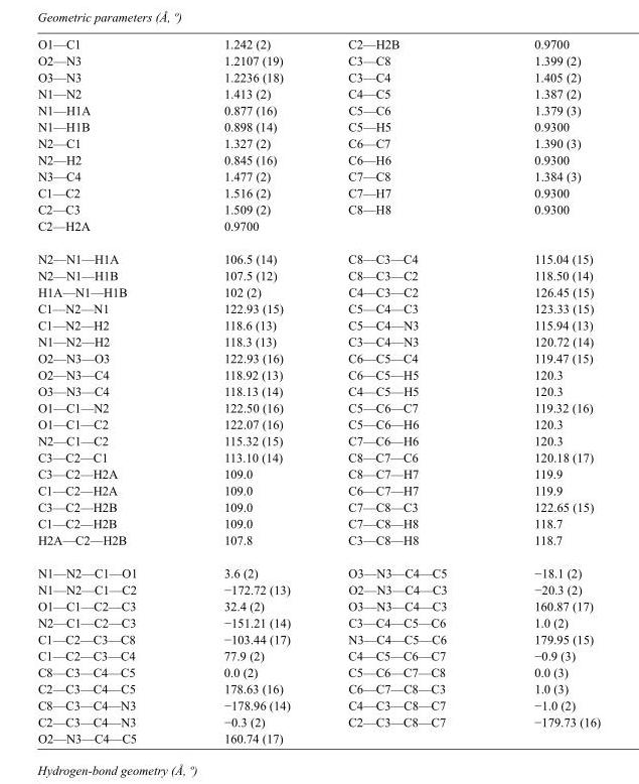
<table><tbody><tr><td>O1—C1</td><td>1.242 (2)</td><td>C2—H2B</td><td>0.9700</td></tr><tr><td>O2—N3</td><td>1.2107 (19)</td><td>C3—C8</td><td>1.399 (2)</td></tr><tr><td>O3—N3</td><td>1.2236 (18)</td><td>C3—C4</td><td>1.405 (2)</td></tr><tr><td>N1—N2</td><td>1.413 (2)</td><td>C4—C5</td><td>1.387 (2)</td></tr><tr><td>N1—H1A</td><td>0.877 (16)</td><td>C5—C6</td><td>1.379 (3)</td></tr><tr><td>N1—H1B</td><td>0.898 (14)</td><td>C5—H5</td><td>0.9300</td></tr><tr><td>N2—C1</td><td>1.327 (2)</td><td>C6—C7</td><td>1.390 (3)</td></tr><tr><td>N2—H2</td><td>0.845 (16)</td><td>C6—H6</td><td>0.9300</td></tr><tr><td>N3—C4</td><td>1.477 (2)</td><td>C7—C8</td><td>1.384 (3)</td></tr><tr><td>C1—C2</td><td>1.516 (2)</td><td>C7—H7</td><td>0.9300</td></tr><tr><td>C2—C3</td><td>1.509 (2)</td><td>C8—H8</td><td>0.9300</td></tr><tr><td>C2—H2A</td><td>0.9700</td><td></td><td></td></tr><tr><td>N2—N1—H1A</td><td>106.5 (14)</td><td>C8—C3—C4</td><td>115.04 (15)</td></tr><tr><td>N2—N1—H1B</td><td>107.5 (12)</td><td>C8—C3—C2</td><td>118.50 (14)</td></tr><tr><td>H1A—N1—H1B</td><td>102 (2)</td><td>C4—C3—C2</td><td>126.45 (15)</td></tr><tr><td>C1—N2—N1</td><td>122.93 (15)</td><td>C5—C4—C3</td><td>123.33 (15)</td></tr><tr><td>C1—N2—H2</td><td>118.6 (13)</td><td>C5—C4—N3</td><td>115.94 (13)</td></tr><tr><td>N1—N2—H2</td><td>118.3 (13)</td><td>C3—C4—N3</td><td>120.72 (14)</td></tr><tr><td>O2—N3—O3</td><td>122.93 (16)</td><td>C6—C5—C4</td><td>119.47 (15)</td></tr><tr><td>O2—N3—C4</td><td>118.92 (13)</td><td>C6—C5—H5</td><td>120.3</td></tr><tr><td>O3—N3—C4</td><td>118.13 (14)</td><td>C4—C5—H5</td><td>120.3</td></tr><tr><td>O1—C1—N2</td><td>122.50 (16)</td><td>C5—C6—C7</td><td>119.32 (16)</td></tr><tr><td>O1—C1—C2</td><td>122.07 (16)</td><td>C5—C6—H6</td><td>120.3</td></tr><tr><td>N2—C1—C2</td><td>115.32 (15)</td><td>C7—C6—H6</td><td>120.3</td></tr><tr><td>C3—C2—C1</td><td>113.10 (14)</td><td>C8—C7—C6</td><td>120.18 (17)</td></tr><tr><td>C3—C2—H2A</td><td>109.0</td><td>C8—C7—H7</td><td>119.9</td></tr><tr><td>C1—C2—H2A</td><td>109.0</td><td>C6—C7—H7</td><td>119.9</td></tr><tr><td>C3—C2—H2B</td><td>109.0</td><td>C7—C8—C3</td><td>122.65 (15)</td></tr><tr><td>C1—C2—H2B</td><td>109.0</td><td>C7—C8—H8</td><td>118.7</td></tr><tr><td>H2A—C2—H2B</td><td>107.8</td><td>C3—C8—H8</td><td>118.7</td></tr><tr><td>N1—N2—C1—O1</td><td>3.6 (2)</td><td>O3—N3—C4—C5</td><td>−18.1 (2)</td></tr><tr><td>N1—N2—C1—C2</td><td>−172.72 (13)</td><td>O2—N3—C4—C3</td><td>−20.3 (2)</td></tr><tr><td>O1—C1—C2—C3</td><td>32.4 (2)</td><td>O3—N3—C4—C3</td><td>160.87 (17)</td></tr><tr><td>N2—C1—C2—C3</td><td>−151.21 (14)</td><td>C3—C4—C5—C6</td><td>1.0 (2)</td></tr><tr><td>C1—C2—C3—C8</td><td>−103.44 (17)</td><td>N3—C4—C5—C6</td><td>179.95 (15)</td></tr><tr><td>C1—C2—C3—C4</td><td>77.9 (2)</td><td>C4—C5—C6—C7</td><td>−0.9 (3)</td></tr><tr><td>C8—C3—C4—C5</td><td>0.0 (2)</td><td>C5—C6—C7—C8</td><td>0.0 (3)</td></tr><tr><td>C2—C3—C4—C5</td><td>178.63 (16)</td><td>C6—C7—C8—C3</td><td>1.0 (3)</td></tr><tr><td>C8—C3—C4—N3</td><td>−178.96 (14)</td><td>C4—C3—C8—C7</td><td>−1.0 (2)</td></tr><tr><td>C2—C3—C4—N3</td><td>−0.3 (2)</td><td>C2—C3—C8—C7</td><td>−179.73 (16)</td></tr><tr><td>O2—N3—C4—C5</td><td>160.74 (17)</td><td></td><td></td></tr></tbody></table>